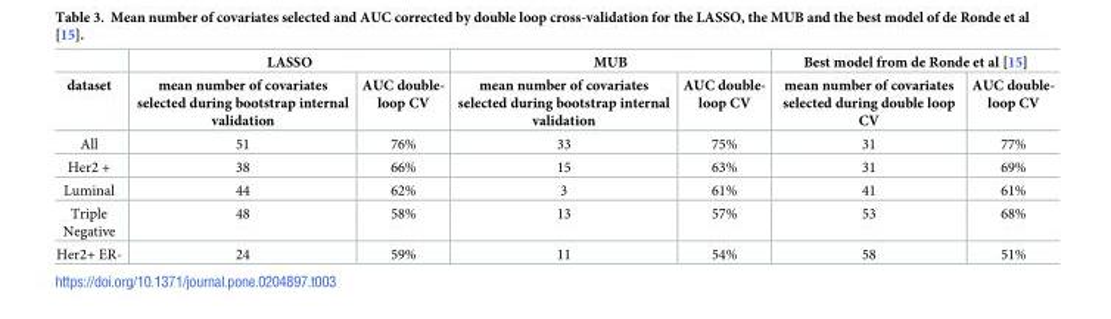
<table><thead><tr><td rowspan="2">dataset</td><td colspan="2">LASSO</td><td colspan="2">MUB</td><td colspan="2">Best model from de Ronde et al [15]</td></tr><tr><td>mean number of covariates selected during bootstrap internal validation</td><td>AUC double- loop CV</td><td>mean number of covariates selected during bootstrap internal validation</td><td>AUC double- loop CV</td><td>mean number of covariates selected during double loop CV</td><td>AUC double- loop CV</td></tr></thead><tbody><tr><td>All</td><td>51</td><td>76%</td><td>33</td><td>75%</td><td>31</td><td>77%</td></tr><tr><td>Her2 +</td><td>38</td><td>66%</td><td>15</td><td>63%</td><td>31</td><td>69%</td></tr><tr><td>Luminal</td><td>44</td><td>62%</td><td>3</td><td>61%</td><td>41</td><td>61%</td></tr><tr><td>Triple Negative</td><td>48</td><td>58%</td><td>13</td><td>57%</td><td>53</td><td>68%</td></tr><tr><td>Her2+ ER-</td><td>24</td><td>59%</td><td>11</td><td>54%</td><td>58</td><td>51%</td></tr></tbody></table>